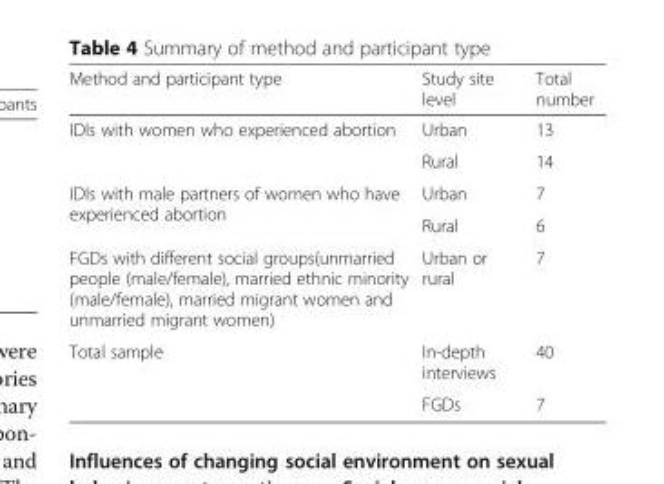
<table><thead><tr><td>Method and participant type</td><td>Study site level</td><td>Total number</td></tr></thead><tbody><tr><td rowspan="2">IDIs with women who experienced abortion</td><td>Urban</td><td>13</td></tr><tr><td>Rural</td><td>14</td></tr><tr><td rowspan="2">IDIs with male partners of women who have experienced abortion</td><td>Urban</td><td>7</td></tr><tr><td>Rural</td><td>6</td></tr><tr><td>FGDs with different social groups(unmarried people (male/female), married ethnic minority (male/female), married migrant women and unmarried migrant women)</td><td>Urban or rural</td><td>7</td></tr><tr><td rowspan="2">Total sample</td><td>In-depth interviews</td><td>40</td></tr><tr><td>FGDs</td><td>7</td></tr></tbody></table>